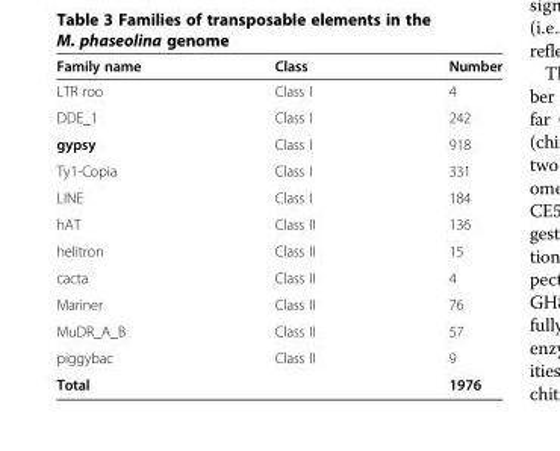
<table><thead><tr><td>Family name</td><td>Class</td><td>Number</td></tr></thead><tbody><tr><td>LTR roo</td><td>Class I</td><td>4</td></tr><tr><td>DDE_1</td><td>Class I</td><td>242</td></tr><tr><td>gypsy</td><td>Class I</td><td>918</td></tr><tr><td>Ty1-Copia</td><td>Class I</td><td>331</td></tr><tr><td>LINE</td><td>Class I</td><td>184</td></tr><tr><td>hAT</td><td>Class II</td><td>136</td></tr><tr><td>helitron</td><td>Class II</td><td>15</td></tr><tr><td>cacta</td><td>Class II</td><td>4</td></tr><tr><td>Mariner</td><td>Class II</td><td>76</td></tr><tr><td>MuDR_A_B</td><td>Class II</td><td>57</td></tr><tr><td>piggybac</td><td>Class II</td><td>9</td></tr><tr><td>Total</td><td></td><td>1976</td></tr></tbody></table>